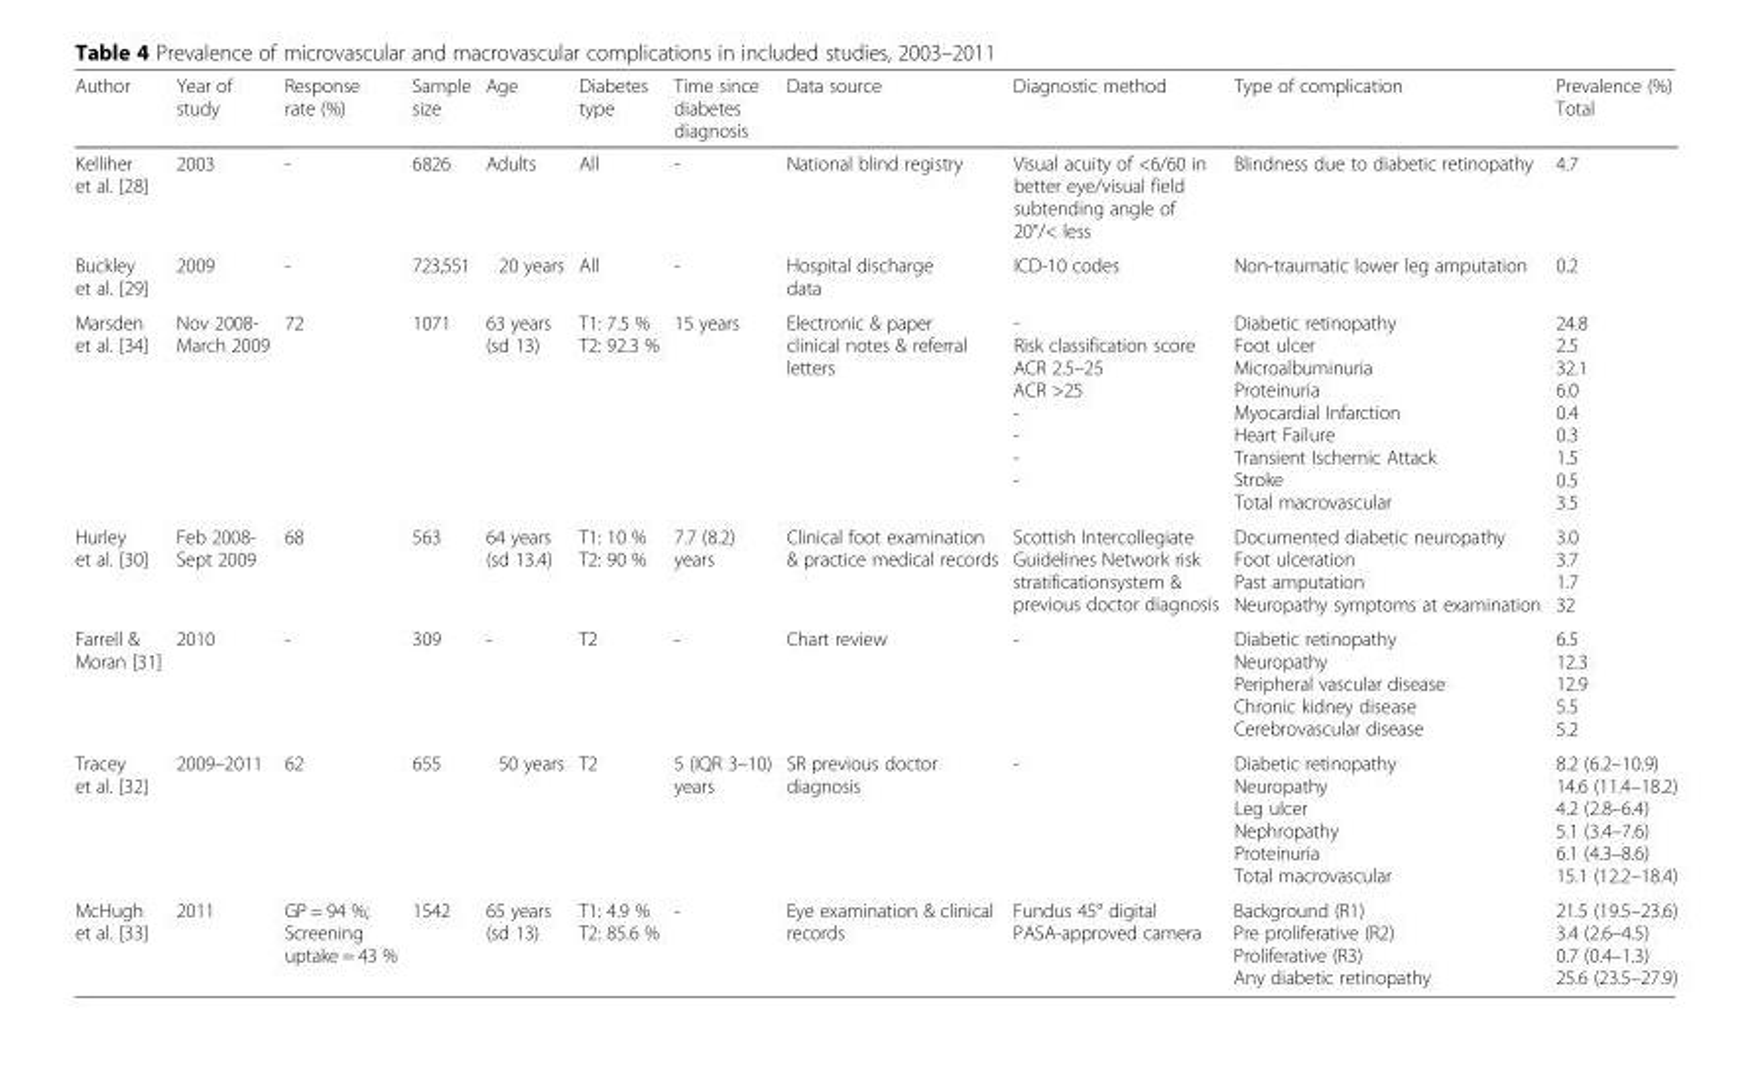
<table><thead><tr><td>Author</td><td>Year of study</td><td>Response rate (%)</td><td>Sample size</td><td>Age</td><td>Diabetes type</td><td>Time since diabetes diagnosis</td><td>Data source</td><td>Diagnostic method</td><td>Type of complication</td><td>Prevalence (%) Total</td></tr></thead><tbody><tr><td>Kelliher et al. [28]</td><td>2003</td><td>-</td><td>6826</td><td>Adults</td><td>All</td><td>-</td><td>National blind registry</td><td>Visual acuity of &lt;6/60 in better eye/visual field subtending angle of 20°/&lt; less</td><td>Blindness due to diabetic retinopathy</td><td>4.7</td></tr><tr><td>Buckley et al. [29]</td><td>2009</td><td>-</td><td>723,551</td><td>20 years</td><td>All</td><td>-</td><td>Hospital discharge data</td><td>ICD-10 codes</td><td>Non-traumatic lower leg amputation</td><td>0.2</td></tr><tr><td>Marsden et al. [34]</td><td>Nov 2008- March 2009</td><td>72</td><td>1071</td><td>63 years (sd 13)</td><td>T1: 7.5 % T2: 92.3 %</td><td>15 years</td><td>Electronic &amp; paper clinical notes &amp; referral letters</td><td>- Risk classification score ACR 2.5–25 ACR &gt;25 - - - -</td><td>Diabetic retinopathy Foot ulcer Microalbuminuria Proteinuria Myocardial Infarction Heart Failure Transient Ischemic Attack Stroke Total macrovascular</td><td>24.8 2.5 32.1 6.0 0.4 0.3 1.5 0.5 3.5</td></tr><tr><td>Hurley et al. [30]</td><td>Feb 2008- Sept 2009</td><td>68</td><td>563</td><td>64 years (sd 13.4)</td><td>T1: 10 % T2: 90 %</td><td>7.7 (8.2) years</td><td>Clinical foot examination &amp; practice medical records</td><td>Scottish Intercollegiate Guidelines Network risk stratificationsystem &amp; previous doctor diagnosis</td><td>Documented diabetic neuropathy Foot ulceration Past amputation Neuropathy symptoms at examination</td><td>3.0 3.7 1.7 32</td></tr><tr><td>Farrell &amp; Moran [31]</td><td>2010</td><td>-</td><td>309</td><td>-</td><td>T2</td><td>-</td><td>Chart review</td><td>-</td><td>Diabetic retinopathy Neuropathy Peripheral vascular disease Chronic kidney disease Cerebrovascular disease</td><td>6.5 12.3 12.9 5.5 5.2</td></tr><tr><td>Tracey et al. [32]</td><td>2009–2011</td><td>62</td><td>655</td><td>50 years</td><td>T2</td><td>5 (IQR 3–10) years</td><td>SR previous doctor diagnosis</td><td>-</td><td>Diabetic retinopathy Neuropathy Leg ulcer Nephropathy Proteinuria Total macrovascular</td><td>8.2 (6.2–10.9) 14.6 (11.4–18.2) 4.2 (2.8–6.4) 5.1 (3.4–7.6) 6.1 (4.3–8.6) 15.1 (12.2–18.4)</td></tr><tr><td>McHugh et al. [33]</td><td>2011</td><td>GP = 94 %; Screening uptake = 43 %</td><td>1542</td><td>65 years (sd 13)</td><td>T1: 4.9 % T2: 85.6 %</td><td>-</td><td>Eye examination &amp; clinical records</td><td>Fundus 45° digital PASA-approved camera</td><td>Background (R1) Pre proliferative (R2) Proliferative (R3) Any diabetic retinopathy</td><td>21.5 (19.5–23.6) 3.4 (2.6–4.5) 0.7 (0.4–1.3) 25.6 (23.5–27.9)</td></tr></tbody></table>